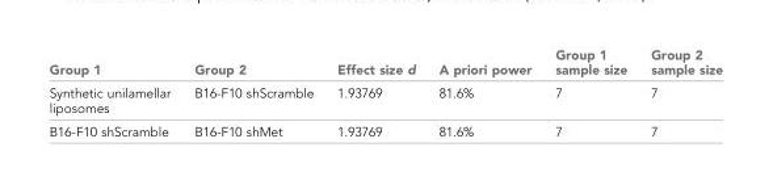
<table><thead><tr><td>Group 1</td><td>Group 2</td><td>Effect size d</td><td>A priori power</td><td>Group 1 sample size</td><td>Group 2 sample size</td></tr></thead><tbody><tr><td>Synthetic unilamellar liposomes</td><td>B16-F10 shScramble</td><td>1.93769</td><td>81.6%</td><td>7</td><td>7</td></tr><tr><td>B16-F10 shScramble</td><td>B16-F10 shMet</td><td>1.93769</td><td>81.6%</td><td>7</td><td>7</td></tr></tbody></table>